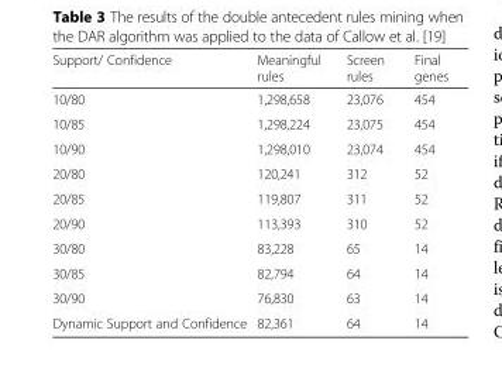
<table><thead><tr><td>Support/ Confidence</td><td>Meaningful rules</td><td>Screen rules</td><td>Final genes</td></tr></thead><tbody><tr><td>10/80</td><td>1,298,658</td><td>23,076</td><td>454</td></tr><tr><td>10/85</td><td>1,298,224</td><td>23,075</td><td>454</td></tr><tr><td>10/90</td><td>1,298,010</td><td>23,074</td><td>454</td></tr><tr><td>20/80</td><td>120,241</td><td>312</td><td>52</td></tr><tr><td>20/85</td><td>119,807</td><td>311</td><td>52</td></tr><tr><td>20/90</td><td>113,393</td><td>310</td><td>52</td></tr><tr><td>30/80</td><td>83,228</td><td>65</td><td>14</td></tr><tr><td>30/85</td><td>82,794</td><td>64</td><td>14</td></tr><tr><td>30/90</td><td>76,830</td><td>63</td><td>14</td></tr><tr><td>Dynamic Support and Confidence</td><td>82,361</td><td>64</td><td>14</td></tr></tbody></table>